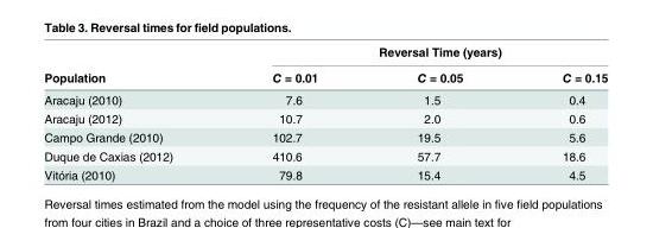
<table><thead><tr><td rowspan="2">Population</td><td colspan="3">Reversal Time (years)</td></tr><tr><td>C = 0.01</td><td>C = 0.05</td><td>C = 0.15</td></tr></thead><tbody><tr><td>Aracaju (2010)</td><td>7.6</td><td>1.5</td><td>0.4</td></tr><tr><td>Aracaju (2012)</td><td>10.7</td><td>2.0</td><td>0.6</td></tr><tr><td>Campo Grande (2010)</td><td>102.7</td><td>19.5</td><td>5.6</td></tr><tr><td>Duque de Caxias (2012)</td><td>410.6</td><td>57.7</td><td>18.6</td></tr><tr><td>Vitória (2010)</td><td>79.8</td><td>15.4</td><td>4.5</td></tr></tbody></table>